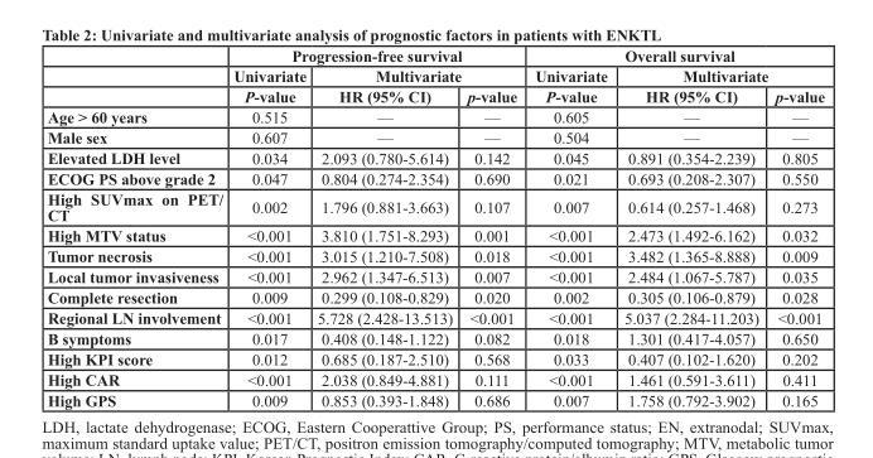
<table><thead><tr><td rowspan="3"></td><td colspan="3">Progression-free survival</td><td colspan="3">Overall survival</td></tr><tr><td rowspan="2">Univariate P-value</td><td colspan="2">Multivariate</td><td rowspan="2">Univariate P-value</td><td colspan="2">Multivariate</td></tr><tr><td>HR (95% CI)</td><td>p-value</td><td>HR (95% CI)</td><td>p-value</td></tr></thead><tbody><tr><td>Age &gt; 60 years</td><td>0.515</td><td>—</td><td>—</td><td>0.605</td><td>—</td><td>—</td></tr><tr><td>Male sex</td><td>0.607</td><td>—</td><td>—</td><td>0.504</td><td>—</td><td>—</td></tr><tr><td>Elevated LDH level</td><td>0.034</td><td>2.093 (0.780-5.614)</td><td>0.142</td><td>0.045</td><td>0.891 (0.354-2.239)</td><td>0.805</td></tr><tr><td>ECOG PS above grade 2</td><td>0.047</td><td>0.804 (0.274-2.354)</td><td>0.690</td><td>0.021</td><td>0.693 (0.208-2.307)</td><td>0.550</td></tr><tr><td>High SUVmax on PET/ CT</td><td>0.002</td><td>1.796 (0.881-3.663)</td><td>0.107</td><td>0.007</td><td>0.614 (0.257-1.468)</td><td>0.273</td></tr><tr><td>High MTV status</td><td>&lt;0.001</td><td>3.810 (1.751-8.293)</td><td>0.001</td><td>&lt;0.001</td><td>2.473 (1.492-6.162)</td><td>0.032</td></tr><tr><td>Tumor necrosis</td><td>&lt;0.001</td><td>3.015 (1.210-7.508)</td><td>0.018</td><td>&lt;0.001</td><td>3.482 (1.365-8.888)</td><td>0.009</td></tr><tr><td>Local tumor invasiveness</td><td>&lt;0.001</td><td>2.962 (1.347-6.513)</td><td>0.007</td><td>&lt;0.001</td><td>2.484 (1.067-5.787)</td><td>0.035</td></tr><tr><td>Complete resection</td><td>0.009</td><td>0.299 (0.108-0.829)</td><td>0.020</td><td>0.002</td><td>0.305 (0.106-0.879)</td><td>0.028</td></tr><tr><td>Regional LN involvement</td><td>&lt;0.001</td><td>5.728 (2.428-13.513)</td><td>&lt;0.001</td><td>&lt;0.001</td><td>5.037 (2.284-11.203)</td><td>&lt;0.001</td></tr><tr><td>B symptoms</td><td>0.017</td><td>0.408 (0.148-1.122)</td><td>0.082</td><td>0.018</td><td>1.301 (0.417-4.057)</td><td>0.650</td></tr><tr><td>High KPI score</td><td>0.012</td><td>0.685 (0.187-2.510)</td><td>0.568</td><td>0.033</td><td>0.407 (0.102-1.620)</td><td>0.202</td></tr><tr><td>High CAR</td><td>&lt;0.001</td><td>2.038 (0.849-4.881)</td><td>0.111</td><td>&lt;0.001</td><td>1.461 (0.591-3.611)</td><td>0.411</td></tr><tr><td>High GPS</td><td>0.009</td><td>0.853 (0.393-1.848)</td><td>0.686</td><td>0.007</td><td>1.758 (0.792-3.902)</td><td>0.165</td></tr></tbody></table>